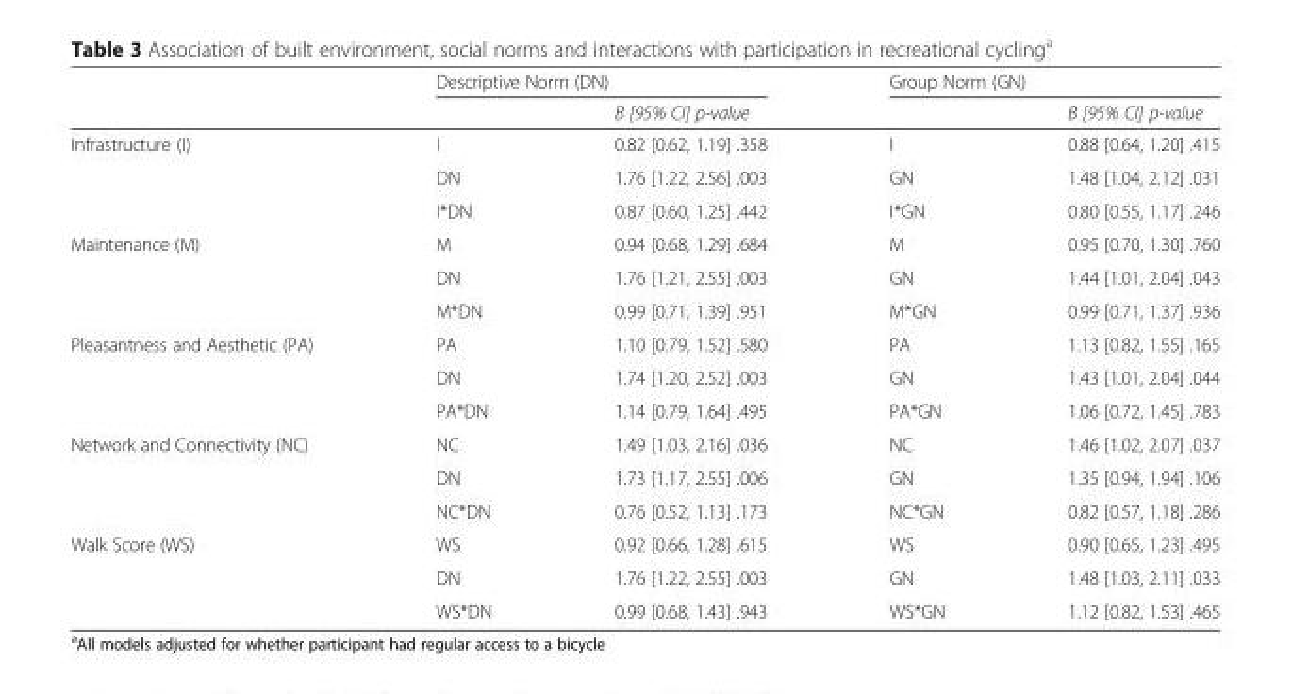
<table><thead><tr><td rowspan="2"></td><td colspan="2">Descriptive Norm (DN)</td><td colspan="2">Group Norm (GN)</td></tr><tr><td></td><td>B [95% CI] p-value</td><td></td><td>B [95% CI] p-value</td></tr></thead><tbody><tr><td rowspan="3">Infrastructure (I)</td><td>I</td><td>0.82 [0.62, 1.19] .358</td><td>I</td><td>0.88 [0.64, 1.20] .415</td></tr><tr><td>DN</td><td>1.76 [1.22, 2.56] .003</td><td>GN</td><td>1.48 [1.04, 2.12] .031</td></tr><tr><td>I*DN</td><td>0.87 [0.60, 1.25] .442</td><td>I*GN</td><td>0.80 [0.55, 1.17] .246</td></tr><tr><td rowspan="3">Maintenance (M)</td><td>M</td><td>0.94 [0.68, 1.29] .684</td><td>M</td><td>0.95 [0.70, 1.30] .760</td></tr><tr><td>DN</td><td>1.76 [1.21, 2.55] .003</td><td>GN</td><td>1.44 [1.01, 2.04] .043</td></tr><tr><td>M*DN</td><td>0.99 [0.71, 1.39] .951</td><td>M*GN</td><td>0.99 [0.71, 1.37] .936</td></tr><tr><td rowspan="3">Pleasantness and Aesthetic (PA)</td><td>PA</td><td>1.10 [0.79, 1.52] .580</td><td>PA</td><td>1.13 [0.82, 1.55] .165</td></tr><tr><td>DN</td><td>1.74 [1.20, 2.52] .003</td><td>GN</td><td>1.43 [1.01, 2.04] .044</td></tr><tr><td>PA*DN</td><td>1.14 [0.79, 1.64] .495</td><td>PA*GN</td><td>1.06 [0.72, 1.45] .783</td></tr><tr><td rowspan="3">Network and Connectivity (NC)</td><td>NC</td><td>1.49 [1.03, 2.16] .036</td><td>NC</td><td>1.46 [1.02, 2.07] .037</td></tr><tr><td>DN</td><td>1.73 [1.17, 2.55] .006</td><td>GN</td><td>1.35 [0.94, 1.94] .106</td></tr><tr><td>NC*DN</td><td>0.76 [0.52, 1.13] .173</td><td>NC*GN</td><td>0.82 [0.57, 1.18] .286</td></tr><tr><td rowspan="3">Walk Score (WS)</td><td>WS</td><td>0.92 [0.66, 1.28] .615</td><td>WS</td><td>0.90 [0.65, 1.23] .495</td></tr><tr><td>DN</td><td>1.76 [1.22, 2.55] .003</td><td>GN</td><td>1.48 [1.03, 2.11] .033</td></tr><tr><td>WS*DN</td><td>0.99 [0.68, 1.43] .943</td><td>WS*GN</td><td>1.12 [0.82, 1.53] .465</td></tr></tbody></table>